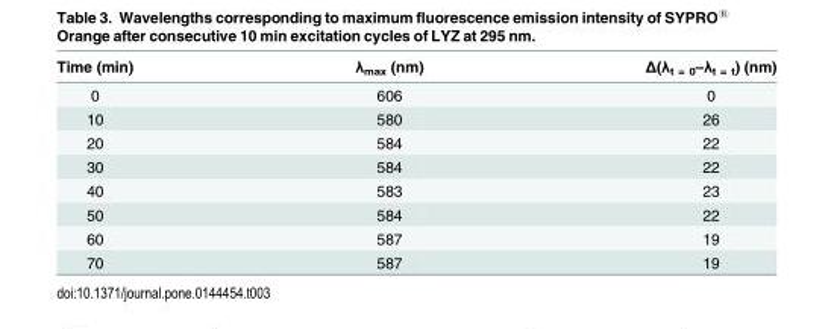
<table><thead><tr><td>Time (min)</td><td>λ<sub>max</sub> (nm)</td><td>Δ(λ<sub>t = 0</sub>–λ<sub>t = t</sub>) (nm)</td></tr></thead><tbody><tr><td>0</td><td>606</td><td>0</td></tr><tr><td>10</td><td>580</td><td>26</td></tr><tr><td>20</td><td>584</td><td>22</td></tr><tr><td>30</td><td>584</td><td>22</td></tr><tr><td>40</td><td>583</td><td>23</td></tr><tr><td>50</td><td>584</td><td>22</td></tr><tr><td>60</td><td>587</td><td>19</td></tr><tr><td>70</td><td>587</td><td>19</td></tr></tbody></table>